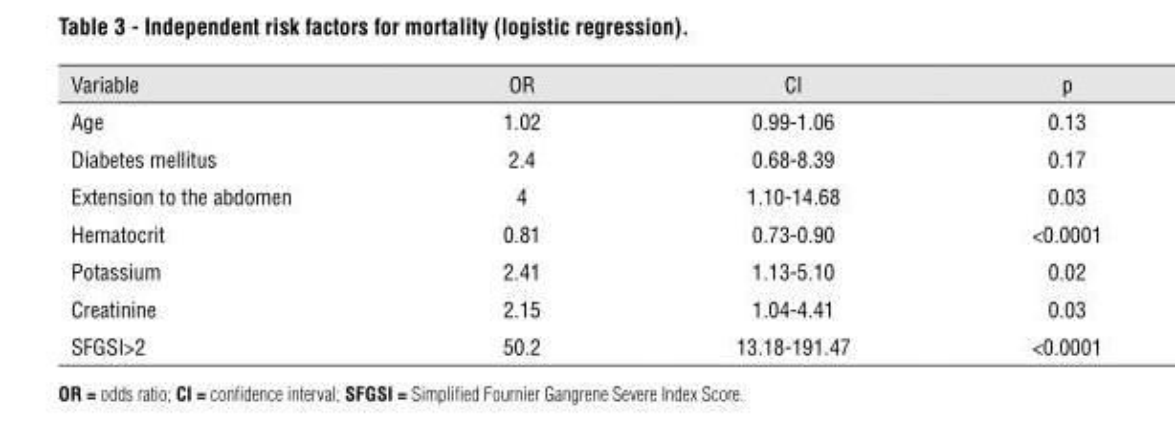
<table><thead><tr><td>Variable</td><td>OR</td><td>CI</td><td>p</td></tr></thead><tbody><tr><td>Age</td><td>1.02</td><td>0.99-1.06</td><td>0.13</td></tr><tr><td>Diabetes mellitus</td><td>2.4</td><td>0.68-8.39</td><td>0.17</td></tr><tr><td>Extension to the abdomen</td><td>4</td><td>1.10-14.68</td><td>0.03</td></tr><tr><td>Hematocrit</td><td>0.81</td><td>0.73-0.90</td><td>&lt;0.0001</td></tr><tr><td>Potassium</td><td>2.41</td><td>1.13-5.10</td><td>0.02</td></tr><tr><td>Creatinine</td><td>2.15</td><td>1.04-4.41</td><td>0.03</td></tr><tr><td>SFGSI&gt;2</td><td>50.2</td><td>13.18-191.47</td><td>&lt;0.0001</td></tr></tbody></table>